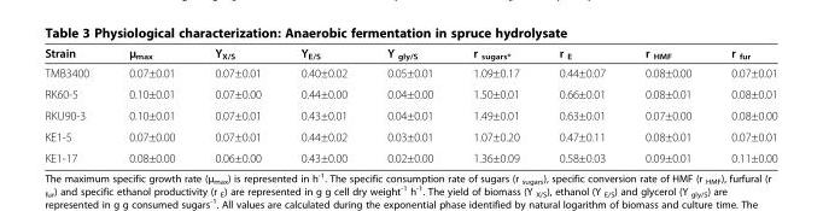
<table><thead><tr><td>Strain</td><td>μ<sub>max</sub></td><td>Y<sub>X/S</sub></td><td>Y<sub>E/S</sub></td><td>Y <sub>gly/S</sub></td><td>r <sub>sugars*</sub></td><td>r <sub>E</sub></td><td>r <sub>HMF</sub></td><td>r <sub>fur</sub></td></tr></thead><tbody><tr><td>TMB3400</td><td>0.07±0.01</td><td>0.07±0.01</td><td>0.40±0.02</td><td>0.05±0.01</td><td>1.09±0.17</td><td>0.44±0.07</td><td>0.08±0.00</td><td>0.07±0.01</td></tr><tr><td>RK60-5</td><td>0.10±0.01</td><td>0.07±0.00</td><td>0.44±0.00</td><td>0.04±0.00</td><td>1.50±0.01</td><td>0.66±0.01</td><td>0.08±0.01</td><td>0.08±0.01</td></tr><tr><td>RKU90-3</td><td>0.10±0.01</td><td>0.07±0.01</td><td>0.43±0.01</td><td>0.04±0.01</td><td>1.49±0.01</td><td>0.63±0.01</td><td>0.07±0.00</td><td>0.08±0.00</td></tr><tr><td>KE1-5</td><td>0.07±0.00</td><td>0.07±0.01</td><td>0.44±0.02</td><td>0.03±0.01</td><td>1.07±0.20</td><td>0.47±0.11</td><td>0.08±0.01</td><td>0.07±0.01</td></tr><tr><td>KE1-17</td><td>0.08±0.00</td><td>0.06±0.00</td><td>0.43±0.00</td><td>0.02±0.00</td><td>1.36±0.09</td><td>0.58±0.03</td><td>0.09±0.01</td><td>0.11±0.00</td></tr></tbody></table>